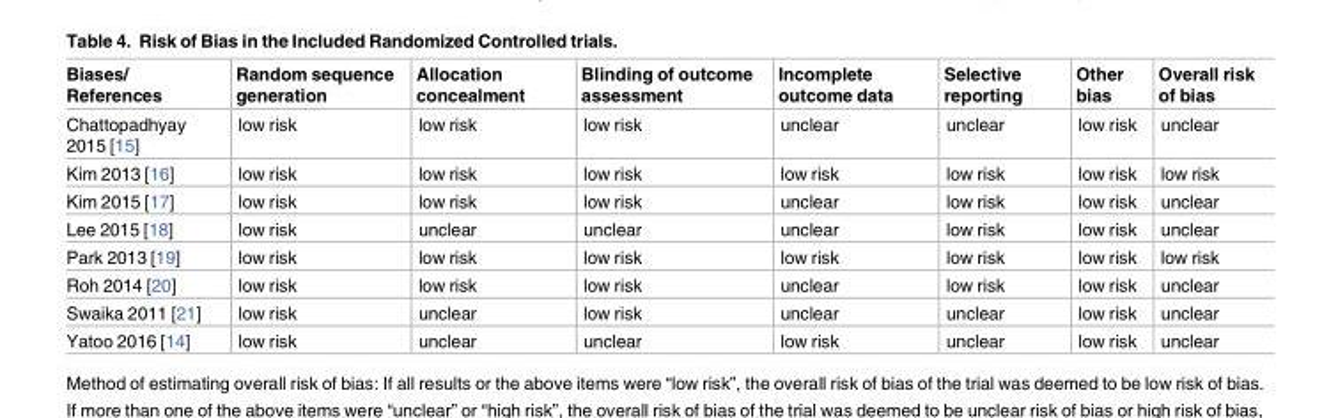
<table><thead><tr><td>Biases/ References</td><td>Random sequence generation</td><td>Allocation concealment</td><td>Blinding of outcome assessment</td><td>Incomplete outcome data</td><td>Selective reporting</td><td>Other bias</td><td>Overall risk of bias</td></tr></thead><tbody><tr><td>Chattopadhyay 2015 [15]</td><td>low risk</td><td>low risk</td><td>low risk</td><td>unclear</td><td>unclear</td><td>low risk</td><td>unclear</td></tr><tr><td>Kim 2013 [16]</td><td>low risk</td><td>low risk</td><td>low risk</td><td>low risk</td><td>low risk</td><td>low risk</td><td>low risk</td></tr><tr><td>Kim 2015 [17]</td><td>low risk</td><td>low risk</td><td>low risk</td><td>unclear</td><td>low risk</td><td>low risk</td><td>unclear</td></tr><tr><td>Lee 2015 [18]</td><td>low risk</td><td>unclear</td><td>unclear</td><td>unclear</td><td>low risk</td><td>low risk</td><td>unclear</td></tr><tr><td>Park 2013 [19]</td><td>low risk</td><td>low risk</td><td>low risk</td><td>low risk</td><td>low risk</td><td>low risk</td><td>low risk</td></tr><tr><td>Roh 2014 [20]</td><td>low risk</td><td>low risk</td><td>low risk</td><td>unclear</td><td>low risk</td><td>low risk</td><td>unclear</td></tr><tr><td>Swaika 2011 [21]</td><td>low risk</td><td>unclear</td><td>low risk</td><td>unclear</td><td>unclear</td><td>low risk</td><td>unclear</td></tr><tr><td>Yatoo 2016 [14]</td><td>low risk</td><td>unclear</td><td>unclear</td><td>low risk</td><td>unclear</td><td>low risk</td><td>unclear</td></tr></tbody></table>